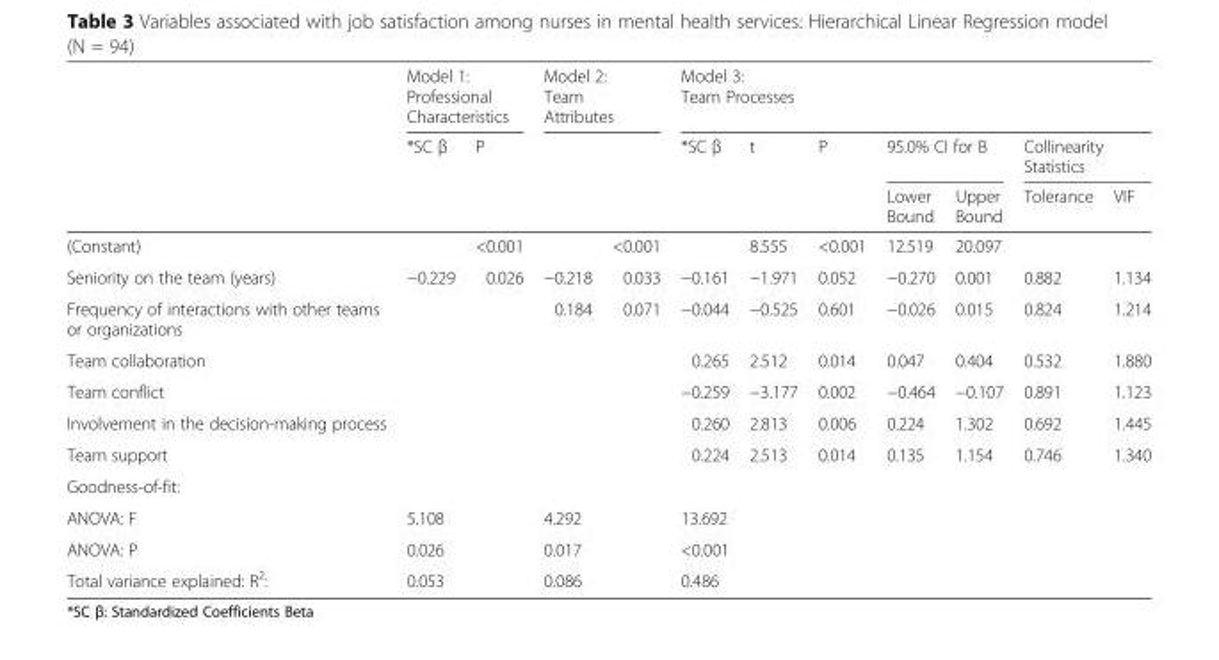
<table><thead><tr><td rowspan="3"></td><td colspan="2">Model 1: Professional Characteristics</td><td colspan="2">Model 2: Team Attributes</td><td colspan="7">Model 3: Team Processes</td></tr><tr><td rowspan="2">*SC β</td><td rowspan="2">P</td><td rowspan="2"></td><td rowspan="2"></td><td rowspan="2">*SC β</td><td rowspan="2">t</td><td rowspan="2">P</td><td colspan="2">95.0% CI for B</td><td colspan="2">Collinearity Statistics</td></tr><tr><td>Lower Bound</td><td>Upper Bound</td><td>Tolerance</td><td>VIF</td></tr></thead><tbody><tr><td>(Constant)</td><td></td><td>&lt;0.001</td><td></td><td>&lt;0.001</td><td></td><td>8.555</td><td>&lt;0.001</td><td>12.519</td><td>20.097</td><td></td><td></td></tr><tr><td>Seniority on the team (years)</td><td>−0.229</td><td>0.026</td><td>−0.218</td><td>0.033</td><td>−0.161</td><td>−1.971</td><td>0.052</td><td>−0.270</td><td>0.001</td><td>0.882</td><td>1.134</td></tr><tr><td>Frequency of interactions with other teams or organizations</td><td></td><td></td><td>0.184</td><td>0.071</td><td>−0.044</td><td>−0.525</td><td>0.601</td><td>−0.026</td><td>0.015</td><td>0.824</td><td>1.214</td></tr><tr><td>Team collaboration</td><td></td><td></td><td></td><td></td><td>0.265</td><td>2.512</td><td>0.014</td><td>0.047</td><td>0.404</td><td>0.532</td><td>1.880</td></tr><tr><td>Team conflict</td><td></td><td></td><td></td><td></td><td>−0.259</td><td>−3.177</td><td>0.002</td><td>−0.464</td><td>−0.107</td><td>0.891</td><td>1.123</td></tr><tr><td>Involvement in the decision-making process</td><td></td><td></td><td></td><td></td><td>0.260</td><td>2.813</td><td>0.006</td><td>0.224</td><td>1.302</td><td>0.692</td><td>1.445</td></tr><tr><td>Team support</td><td></td><td></td><td></td><td></td><td>0.224</td><td>2.513</td><td>0.014</td><td>0.135</td><td>1.154</td><td>0.746</td><td>1.340</td></tr><tr><td colspan="12">Goodness-of-fit:</td></tr><tr><td>ANOVA: F</td><td colspan="2">5.108</td><td colspan="2">4.292</td><td colspan="7">13.692</td></tr><tr><td>ANOVA: P</td><td colspan="2">0.026</td><td colspan="2">0.017</td><td colspan="7">&lt;0.001</td></tr><tr><td>Total variance explained: R<sup>2</sup>:</td><td colspan="2">0.053</td><td colspan="2">0.086</td><td colspan="7">0.486</td></tr></tbody></table>